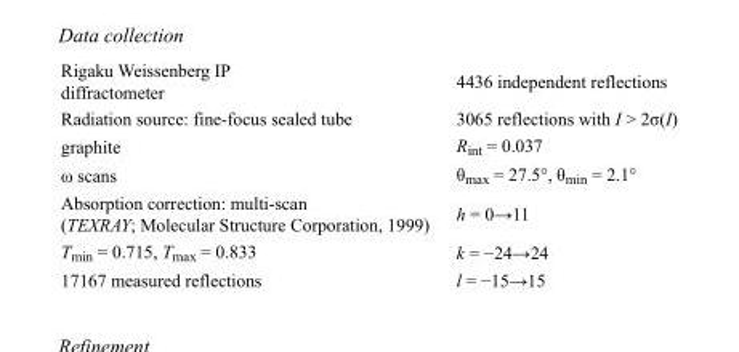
<table><tbody><tr><td>Rigaku Weissenberg IP diffractometer</td><td>4436 independent reflections</td></tr><tr><td>Radiation source: fine-focus sealed tube</td><td>3065 reflections with I &gt; 2σ(I)</td></tr><tr><td>graphite</td><td>R<sub>int</sub> = 0.037</td></tr><tr><td>ω scans</td><td>θ<sub>max</sub> = 27.5°, θ<sub>min</sub> = 2.1°</td></tr><tr><td>Absorption correction: multi-scan (TEXRAY; Molecular Structure Corporation, 1999)</td><td>h = 0→11</td></tr><tr><td>T<sub>min</sub> = 0.715, T<sub>max</sub> = 0.833</td><td>k = −24→24</td></tr><tr><td>17167 measured reflections</td><td>l = −15→15</td></tr></tbody></table>